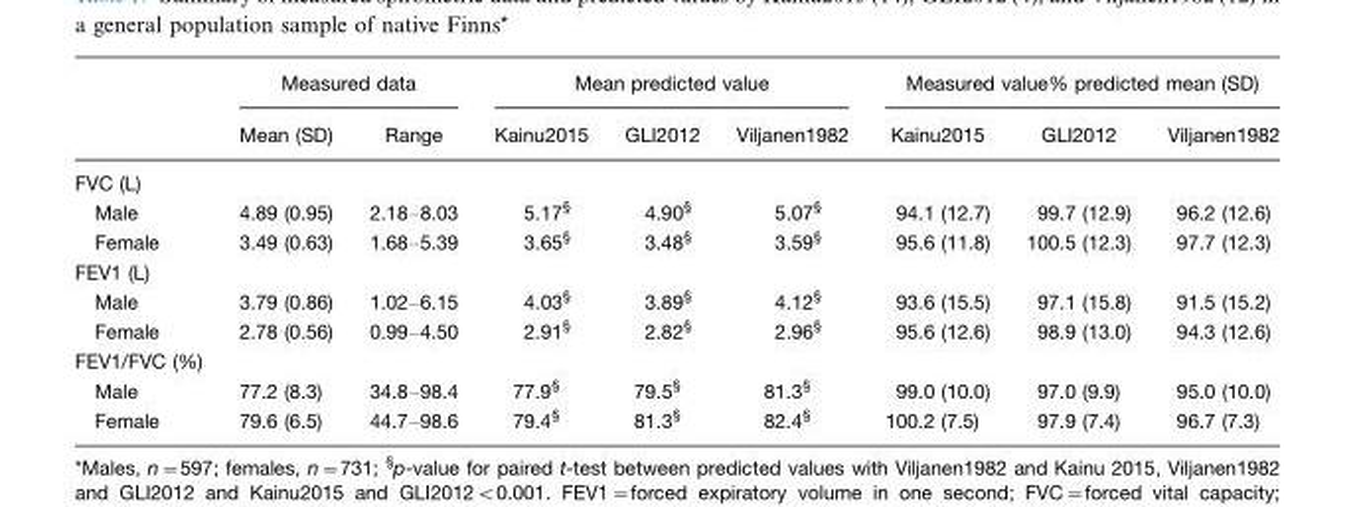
<table><thead><tr><td rowspan="2"></td><td colspan="2">Measured data</td><td colspan="3">Mean predicted value</td><td colspan="3">Measured value% predicted mean (SD)</td></tr><tr><td>Mean (SD)</td><td>Range</td><td>Kainu2015</td><td>GLI2012</td><td>Viljanen1982</td><td>Kainu2015</td><td>GLI2012</td><td>Viljanen1982</td></tr></thead><tbody><tr><td colspan="9">FVC (L)</td></tr><tr><td>Male</td><td>4.89 (0.95)</td><td>2.18–8.03</td><td>5.17§</td><td>4.90§</td><td>5.07§</td><td>94.1 (12.7)</td><td>99.7 (12.9)</td><td>96.2 (12.6)</td></tr><tr><td>Female</td><td>3.49 (0.63)</td><td>1.68–5.39</td><td>3.65§</td><td>3.48§</td><td>3.59§</td><td>95.6 (11.8)</td><td>100.5 (12.3)</td><td>97.7 (12.3)</td></tr><tr><td colspan="9">FEV1 (L)</td></tr><tr><td>Male</td><td>3.79 (0.86)</td><td>1.02–6.15</td><td>4.03§</td><td>3.89§</td><td>4.12§</td><td>93.6 (15.5)</td><td>97.1 (15.8)</td><td>91.5 (15.2)</td></tr><tr><td>Female</td><td>2.78 (0.56)</td><td>0.99–4.50</td><td>2.91§</td><td>2.82§</td><td>2.96§</td><td>95.6 (12.6)</td><td>98.9 (13.0)</td><td>94.3 (12.6)</td></tr><tr><td colspan="9">FEV1/FVC (%)</td></tr><tr><td>Male</td><td>77.2 (8.3)</td><td>34.8–98.4</td><td>77.9§</td><td>79.5§</td><td>81.3§</td><td>99.0 (10.0)</td><td>97.0 (9.9)</td><td>95.0 (10.0)</td></tr><tr><td>Female</td><td>79.6 (6.5)</td><td>44.7–98.6</td><td>79.4§</td><td>81.3§</td><td>82.4§</td><td>100.2 (7.5)</td><td>97.9 (7.4)</td><td>96.7 (7.3)</td></tr></tbody></table>